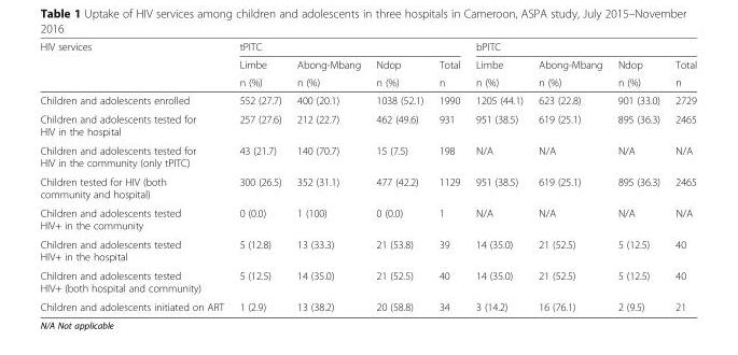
<table><thead><tr><td rowspan="3">HIV services</td><td colspan="4">tPITC</td><td colspan="4">bPITC</td></tr><tr><td rowspan="2">Limbe n (%)</td><td rowspan="2">Abong-Mbang n (%)</td><td rowspan="2">Ndop n (%)</td><td rowspan="2">Total n</td><td rowspan="2">Limbe n (%)</td><td rowspan="2">Abong-Mbang n (%)</td><td rowspan="2">Ndop n (%)</td><td rowspan="2">Total n</td></tr><tr></tr></thead><tbody><tr><td>Children and adolescents enrolled</td><td>552 (27.7)</td><td>400 (20.1)</td><td>1038 (52.1)</td><td>1990</td><td>1205 (44.1)</td><td>623 (22.8)</td><td>901 (33.0)</td><td>2729</td></tr><tr><td>Children and adolescents tested for HIV in the hospital</td><td>257 (27.6)</td><td>212 (22.7)</td><td>462 (49.6)</td><td>931</td><td>951 (38.5)</td><td>619 (25.1)</td><td>895 (36.3)</td><td>2465</td></tr><tr><td>Children and adolescents tested for HIV in the community (only tPITC)</td><td>43 (21.7)</td><td>140 (70.7)</td><td>15 (7.5)</td><td>198</td><td>N/A</td><td>N/A</td><td>N/A</td><td>N/A</td></tr><tr><td>Children tested for HIV (both community and hospital)</td><td>300 (26.5)</td><td>352 (31.1)</td><td>477 (42.2)</td><td>1129</td><td>951 (38.5)</td><td>619 (25.1)</td><td>895 (36.3)</td><td>2465</td></tr><tr><td>Children and adolescents tested HIV+ in the community</td><td>0 (0.0)</td><td>1 (100)</td><td>0 (0.0)</td><td>1</td><td>N/A</td><td>N/A</td><td>N/A</td><td>N/A</td></tr><tr><td>Children and adolescents tested HIV+ in the hospital</td><td>5 (12.8)</td><td>13 (33.3)</td><td>21 (53.8)</td><td>39</td><td>14 (35.0)</td><td>21 (52.5)</td><td>5 (12.5)</td><td>40</td></tr><tr><td>Children and adolescents tested HIV+ (both hospital and community)</td><td>5 (12.5)</td><td>14 (35.0)</td><td>21 (52.5)</td><td>40</td><td>14 (35.0)</td><td>21 (52.5)</td><td>5 (12.5)</td><td>40</td></tr><tr><td>Children and adolescents initiated on ART</td><td>1 (2.9)</td><td>13 (38.2)</td><td>20 (58.8)</td><td>34</td><td>3 (14.2)</td><td>16 (76.1)</td><td>2 (9.5)</td><td>21</td></tr></tbody></table>